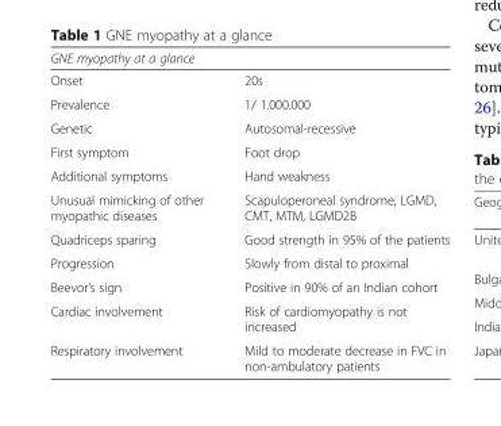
<table><thead><tr><td colspan="2">GNE myopathy at a glance</td></tr><tr><td>Onset</td><td>20s</td></tr></thead><tbody><tr><td>Prevalence</td><td>1/ 1.000.000</td></tr><tr><td>Genetic</td><td>Autosomal-recessive</td></tr><tr><td>First symptom</td><td>Foot drop</td></tr><tr><td>Additional symptoms</td><td>Hand weakness</td></tr><tr><td>Unusual mimicking of other myopathic diseases</td><td>Scapuloperoneal syndrome, LGMD, CMT, MTM, LGMD2B</td></tr><tr><td>Quadriceps sparing</td><td>Good strength in 95% of the patients</td></tr><tr><td>Progression</td><td>Slowly from distal to proximal</td></tr><tr><td>Beevor’s sign</td><td>Positive in 90% of an Indian cohort</td></tr><tr><td>Cardiac involvement</td><td>Risk of cardiomyopathy is not increased</td></tr><tr><td>Respiratory involvement</td><td>Mild to moderate decrease in FVC in non-ambulatory patients</td></tr></tbody></table>